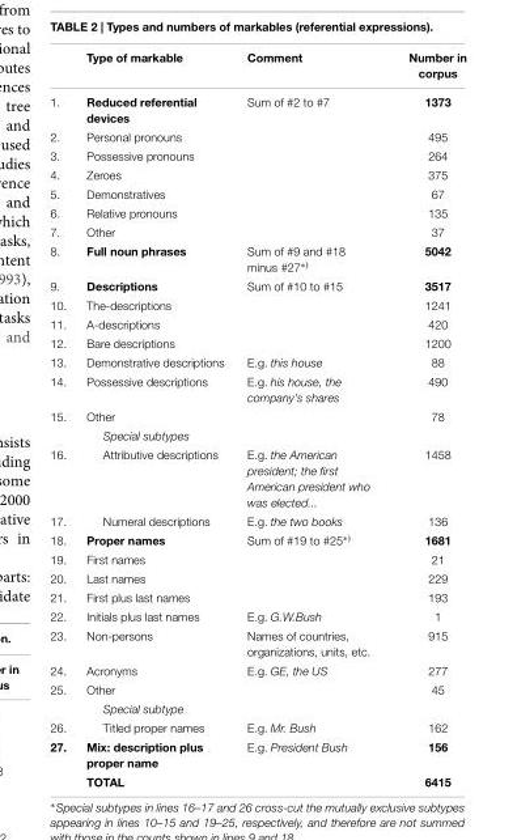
<table><thead><tr><td></td><td>Type of markable</td><td>Comment</td><td>Number in corpus</td></tr></thead><tbody><tr><td>1.</td><td>Reduced referential devices</td><td>Sum of #2 to #7</td><td>1373</td></tr><tr><td>2.</td><td>Personal pronouns</td><td></td><td>495</td></tr><tr><td>3.</td><td>Possessive pronouns</td><td></td><td>264</td></tr><tr><td>4.</td><td>Zeroes</td><td></td><td>375</td></tr><tr><td>5.</td><td>Demonstratives</td><td></td><td>67</td></tr><tr><td>6.</td><td>Relative pronouns</td><td></td><td>135</td></tr><tr><td>7.</td><td>Other</td><td></td><td>37</td></tr><tr><td>8.</td><td>Full noun phrases</td><td>Sum of #9 and #18 minus #27<sup>∗)</sup></td><td>5042</td></tr><tr><td>9.</td><td>Descriptions</td><td>Sum of #10 to #15</td><td>3517</td></tr><tr><td>10.</td><td>The-descriptions</td><td></td><td>1241</td></tr><tr><td>11.</td><td>A-descriptions</td><td></td><td>420</td></tr><tr><td>12.</td><td>Bare descriptions</td><td></td><td>1200</td></tr><tr><td>13.</td><td>Demonstrative descriptions</td><td>E.g. this house</td><td>88</td></tr><tr><td>14.</td><td>Possessive descriptions</td><td>E.g. his house, the company’s shares</td><td>490</td></tr><tr><td rowspan="2">15.</td><td>Other</td><td></td><td>78</td></tr><tr><td>Special subtypes</td><td></td><td></td></tr><tr><td>16.</td><td>Attributive descriptions</td><td>E.g. the American president; the first American president who was elected...</td><td>1458</td></tr><tr><td>17.</td><td>Numeral descriptions</td><td>E.g. the two books</td><td>136</td></tr><tr><td>18.</td><td>Proper names</td><td>Sum of #19 to #25<sup>∗)</sup></td><td>1681</td></tr><tr><td>19.</td><td>First names</td><td></td><td>21</td></tr><tr><td>20.</td><td>Last names</td><td></td><td>229</td></tr><tr><td>21.</td><td>First plus last names</td><td></td><td>193</td></tr><tr><td>22.</td><td>Initials plus last names</td><td>E.g. G.W.Bush</td><td>1</td></tr><tr><td>23.</td><td>Non-persons</td><td>Names of countries, organizations, units, etc.</td><td>915</td></tr><tr><td>24.</td><td>Acronyms</td><td>E.g. GE, the US</td><td>277</td></tr><tr><td rowspan="2">25.</td><td>Other</td><td></td><td>45</td></tr><tr><td>Special subtype</td><td></td><td></td></tr><tr><td>26.</td><td>Titled proper names</td><td>E.g. Mr. Bush</td><td>162</td></tr><tr><td rowspan="2">27.</td><td>Mix: description plus proper name</td><td>E.g. President Bush</td><td>156</td></tr><tr><td>TOTAL</td><td></td><td>6415</td></tr></tbody></table>